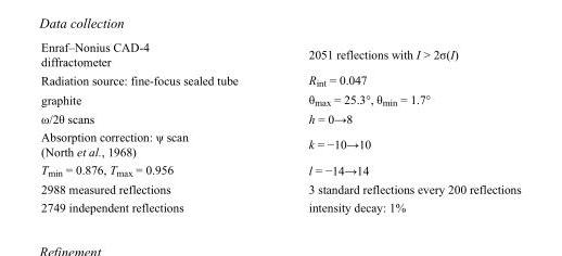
<table><tbody><tr><td>Enraf–Nonius CAD-4 diffractometer</td><td>2051 reflections with I &gt; 2σ(I)</td></tr><tr><td>Radiation source: fine-focus sealed tube</td><td>R<sub>int</sub> = 0.047</td></tr><tr><td>graphite</td><td>θ<sub>max</sub> = 25.3°, θ<sub>min</sub> = 1.7°</td></tr><tr><td>ω/2θ scans</td><td>h = 0→8</td></tr><tr><td>Absorption correction: ψ scan (North et al., 1968)</td><td>k = −10→10</td></tr><tr><td>T<sub>min</sub> = 0.876, T<sub>max</sub> = 0.956</td><td>l = −14→14</td></tr><tr><td>2988 measured reflections</td><td>3 standard reflections every 200 reflections</td></tr><tr><td>2749 independent reflections</td><td>intensity decay: 1%</td></tr></tbody></table>